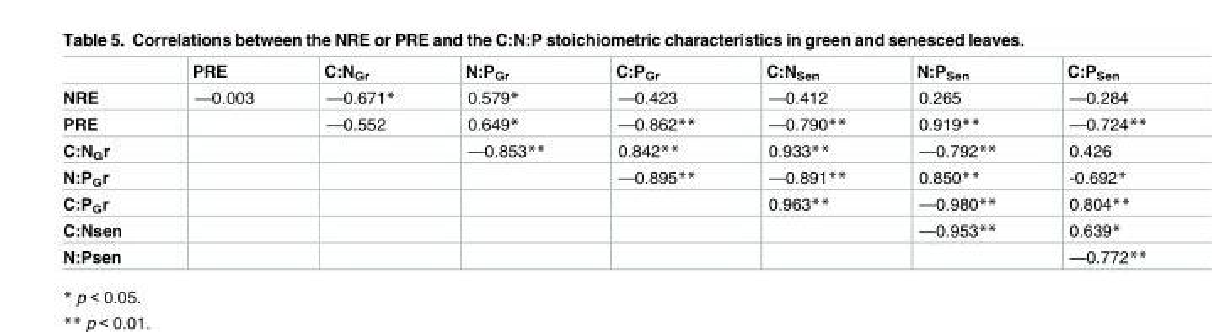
<table><thead><tr><td></td><td>PRE</td><td>C:N<sub>Gr</sub></td><td>N:P<sub>Gr</sub></td><td>C:P<sub>Gr</sub></td><td>C:N<sub>Sen</sub></td><td>N:P<sub>Sen</sub></td><td>C:P<sub>Sen</sub></td></tr></thead><tbody><tr><td>NRE</td><td>—0.003</td><td>—0.671*</td><td>0.579*</td><td>—0.423</td><td>—0.412</td><td>0.265</td><td>—0.284</td></tr><tr><td>PRE</td><td></td><td>—0.552</td><td>0.649*</td><td>—0.862**</td><td>—0.790**</td><td>0.919**</td><td>—0.724**</td></tr><tr><td>C:N<sub>G</sub>r</td><td></td><td></td><td>—0.853**</td><td>0.842**</td><td>0.933**</td><td>—0.792**</td><td>0.426</td></tr><tr><td>N:P<sub>G</sub>r</td><td></td><td></td><td></td><td>—0.895**</td><td>—0.891**</td><td>0.850**</td><td>-0.692*</td></tr><tr><td>C:P<sub>G</sub>r</td><td></td><td></td><td></td><td></td><td>0.963**</td><td>—0.980**</td><td>0.804**</td></tr><tr><td>C:Nsen</td><td></td><td></td><td></td><td></td><td></td><td>—0.953**</td><td>0.639*</td></tr><tr><td>N:Psen</td><td></td><td></td><td></td><td></td><td></td><td></td><td>—0.772**</td></tr></tbody></table>